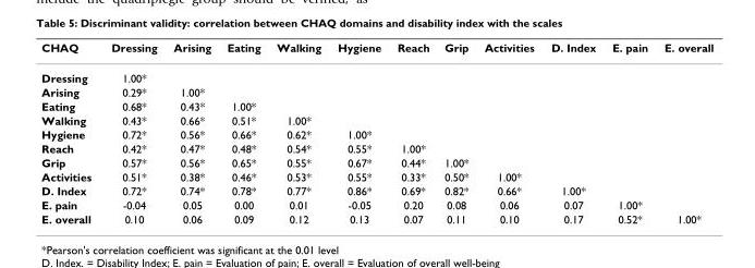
<table><thead><tr><td>CHAQ</td><td>Dressing</td><td>Arising</td><td>Eating</td><td>Walking</td><td>Hygiene</td><td>Reach</td><td>Grip</td><td>Activities</td><td>D. Index</td><td>E. pain</td><td>E. overall</td></tr></thead><tbody><tr><td>Dressing</td><td>1.00*</td><td></td><td></td><td></td><td></td><td></td><td></td><td></td><td></td><td></td><td></td></tr><tr><td>Arising</td><td>0.29*</td><td>1.00*</td><td></td><td></td><td></td><td></td><td></td><td></td><td></td><td></td><td></td></tr><tr><td>Eating</td><td>0.68*</td><td>0.43*</td><td>1.00*</td><td></td><td></td><td></td><td></td><td></td><td></td><td></td><td></td></tr><tr><td>Walking</td><td>0.43*</td><td>0.66*</td><td>0.51*</td><td>1.00*</td><td></td><td></td><td></td><td></td><td></td><td></td><td></td></tr><tr><td>Hygiene</td><td>0.72*</td><td>0.56*</td><td>0.66*</td><td>0.62*</td><td>1.00*</td><td></td><td></td><td></td><td></td><td></td><td></td></tr><tr><td>Reach</td><td>0.42*</td><td>0.47*</td><td>0.48*</td><td>0.54*</td><td>0.55*</td><td>1.00*</td><td></td><td></td><td></td><td></td><td></td></tr><tr><td>Grip</td><td>0.57*</td><td>0.56*</td><td>0.65*</td><td>0.55*</td><td>0.67*</td><td>0.44*</td><td>1.00*</td><td></td><td></td><td></td><td></td></tr><tr><td>Activities</td><td>0.51*</td><td>0.38*</td><td>0.46*</td><td>0.53*</td><td>0.55*</td><td>0.33*</td><td>0.50*</td><td>1.00*</td><td></td><td></td><td></td></tr><tr><td>D. Index</td><td>0.72*</td><td>0.74*</td><td>0.78*</td><td>0.77*</td><td>0.86*</td><td>0.69*</td><td>0.82*</td><td>0.66*</td><td>1.00*</td><td></td><td></td></tr><tr><td>E. pain</td><td>-0.04</td><td>0.05</td><td>0.00</td><td>0.01</td><td>-0.05</td><td>0.20</td><td>0.08</td><td>0.06</td><td>0.07</td><td>1.00*</td><td></td></tr><tr><td>E. overall</td><td>0.10</td><td>0.06</td><td>0.09</td><td>0.12</td><td>0.13</td><td>0.07</td><td>0.11</td><td>0.10</td><td>0.17</td><td>0.52*</td><td>1.00*</td></tr></tbody></table>